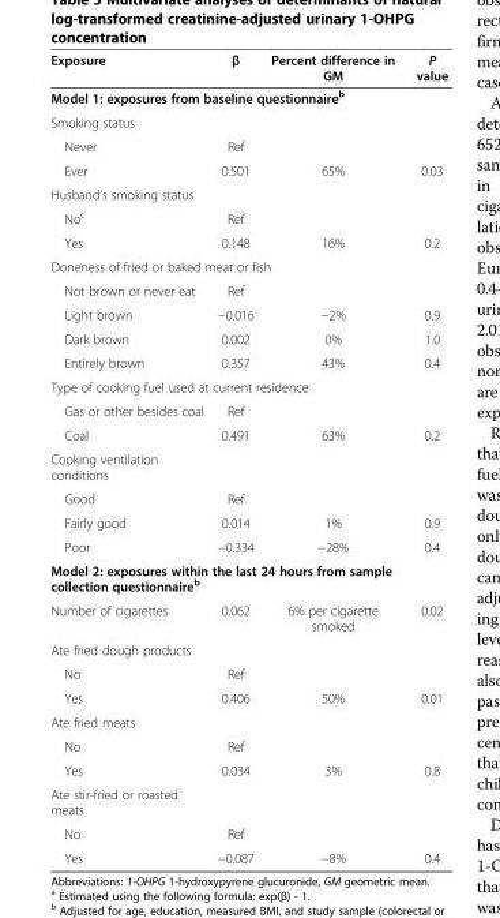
<table><thead><tr><td>Exposure</td><td>β</td><td>Percent difference in GM</td><td>P value</td></tr></thead><tbody><tr><td colspan="4">Model 1: exposures from baseline questionnaire<sup>b</sup></td></tr><tr><td colspan="4">Smoking status</td></tr><tr><td>Never</td><td>Ref</td><td></td><td></td></tr><tr><td>Ever</td><td>0.501</td><td>65%</td><td>0.03</td></tr><tr><td colspan="4">Husband’s smoking status</td></tr><tr><td>No<sup>c</sup></td><td>Ref</td><td></td><td></td></tr><tr><td>Yes</td><td>0.148</td><td>16%</td><td>0.2</td></tr><tr><td colspan="4">Doneness of fried or baked meat or fish</td></tr><tr><td>Not brown or never eat</td><td>Ref</td><td></td><td></td></tr><tr><td>Light brown</td><td>−0.016</td><td>−2%</td><td>0.9</td></tr><tr><td>Dark brown</td><td>0.002</td><td>0%</td><td>1.0</td></tr><tr><td>Entirely brown</td><td>0.357</td><td>43%</td><td>0.4</td></tr><tr><td colspan="4">Type of cooking fuel used at current residence</td></tr><tr><td>Gas or other besides coal</td><td>Ref</td><td></td><td></td></tr><tr><td>Coal</td><td>0.491</td><td>63%</td><td>0.2</td></tr><tr><td colspan="4">Cooking ventilation conditions</td></tr><tr><td>Good</td><td>Ref</td><td></td><td></td></tr><tr><td>Fairly good</td><td>0.014</td><td>1%</td><td>0.9</td></tr><tr><td>Poor</td><td>−0.334</td><td>−28%</td><td>0.4</td></tr><tr><td colspan="4">Model 2: exposures within the last 24 hours from sample collection questionnaire<sup>b</sup></td></tr><tr><td>Number of cigarettes</td><td>0.062</td><td>6% per cigarette smoked</td><td>0.02</td></tr><tr><td colspan="4">Ate fried dough products</td></tr><tr><td>No</td><td>Ref</td><td></td><td></td></tr><tr><td>Yes</td><td>0.406</td><td>50%</td><td>0.01</td></tr><tr><td colspan="4">Ate fried meats</td></tr><tr><td>No</td><td>Ref</td><td></td><td></td></tr><tr><td>Yes</td><td>0.034</td><td>3%</td><td>0.8</td></tr><tr><td colspan="4">Ate stir-fried or roasted meats</td></tr><tr><td>No</td><td>Ref</td><td></td><td></td></tr><tr><td>Yes</td><td>−0.087</td><td>−8%</td><td>0.4</td></tr></tbody></table>